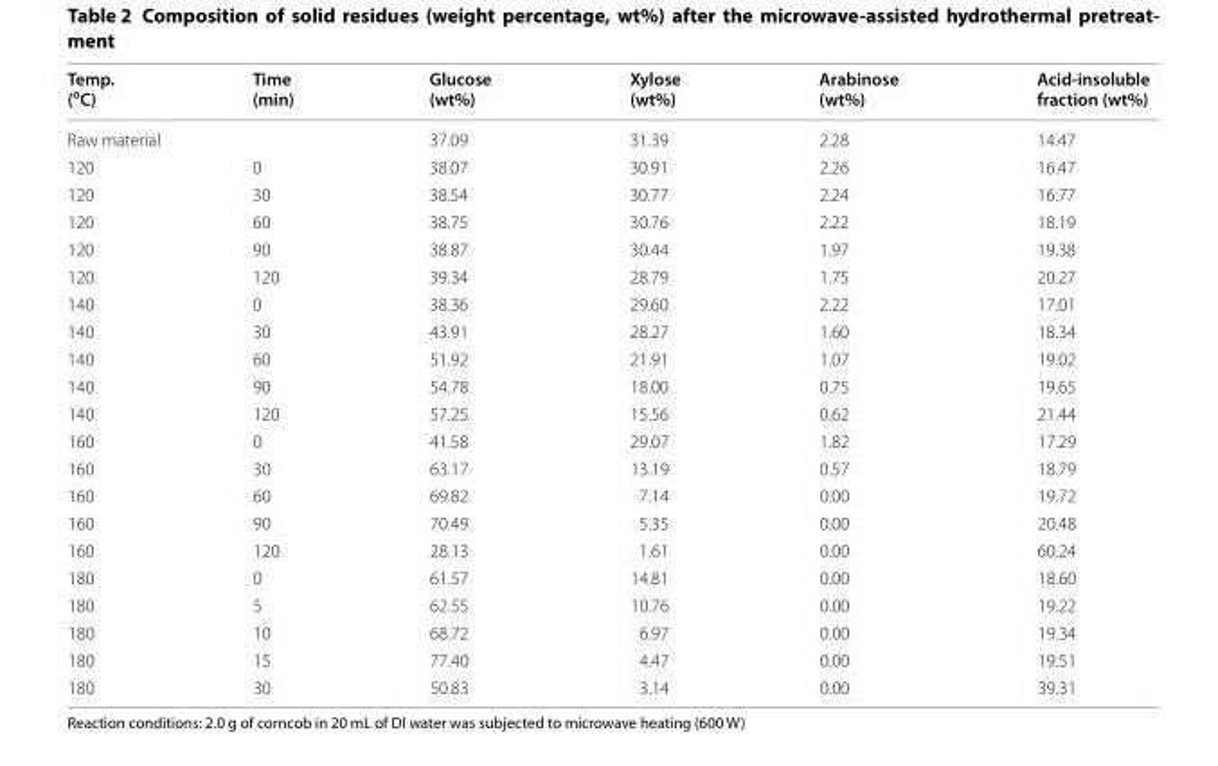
<table><thead><tr><td>Temp. (<sup>o</sup>C)</td><td>Time (min)</td><td>Glucose (wt%)</td><td>Xylose (wt%)</td><td>Arabinose (wt%)</td><td>Acid‑insoluble fraction (wt%)</td></tr></thead><tbody><tr><td colspan="2">Raw material</td><td>37.09</td><td>31.39</td><td>2.28</td><td>14.47</td></tr><tr><td>120</td><td>0</td><td>38.07</td><td>30.91</td><td>2.26</td><td>16.47</td></tr><tr><td>120</td><td>30</td><td>38.54</td><td>30.77</td><td>2.24</td><td>16.77</td></tr><tr><td>120</td><td>60</td><td>38.75</td><td>30.76</td><td>2.22</td><td>18.19</td></tr><tr><td>120</td><td>90</td><td>38.87</td><td>30.44</td><td>1.97</td><td>19.38</td></tr><tr><td>120</td><td>120</td><td>39.34</td><td>28.79</td><td>1.75</td><td>20.27</td></tr><tr><td>140</td><td>0</td><td>38.36</td><td>29.60</td><td>2.22</td><td>17.01</td></tr><tr><td>140</td><td>30</td><td>43.91</td><td>28.27</td><td>1.60</td><td>18.34</td></tr><tr><td>140</td><td>60</td><td>51.92</td><td>21.91</td><td>1.07</td><td>19.02</td></tr><tr><td>140</td><td>90</td><td>54.78</td><td>18.00</td><td>0.75</td><td>19.65</td></tr><tr><td>140</td><td>120</td><td>57.25</td><td>15.56</td><td>0.62</td><td>21.44</td></tr><tr><td>160</td><td>0</td><td>41.58</td><td>29.07</td><td>1.82</td><td>17.29</td></tr><tr><td>160</td><td>30</td><td>63.17</td><td>13.19</td><td>0.57</td><td>18.79</td></tr><tr><td>160</td><td>60</td><td>69.82</td><td>7.14</td><td>0.00</td><td>19.72</td></tr><tr><td>160</td><td>90</td><td>70.49</td><td>5.35</td><td>0.00</td><td>20.48</td></tr><tr><td>160</td><td>120</td><td>28.13</td><td>1.61</td><td>0.00</td><td>60.24</td></tr><tr><td>180</td><td>0</td><td>61.57</td><td>14.81</td><td>0.00</td><td>18.60</td></tr><tr><td>180</td><td>5</td><td>62.55</td><td>10.76</td><td>0.00</td><td>19.22</td></tr><tr><td>180</td><td>10</td><td>68.72</td><td>6.97</td><td>0.00</td><td>19.34</td></tr><tr><td>180</td><td>15</td><td>77.40</td><td>4.47</td><td>0.00</td><td>19.51</td></tr><tr><td>180</td><td>30</td><td>50.83</td><td>3.14</td><td>0.00</td><td>39.31</td></tr></tbody></table>